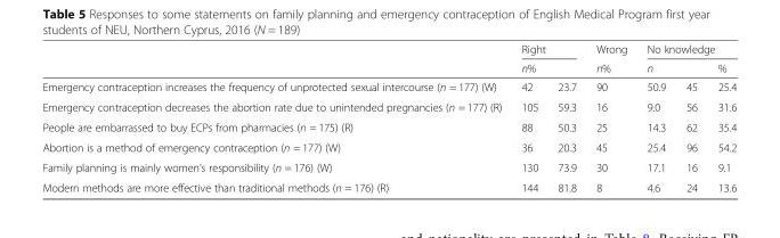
<table><thead><tr><td rowspan="3">Emergency contraception increases the frequency of unprotected sexual intercourse (n = 177) (W)</td><td rowspan="2" colspan="2">Right n%</td><td rowspan="3">Wrong n% 90</td><td colspan="3">No knowledge</td></tr><tr><td colspan="2">n</td><td rowspan="2">% 25.4</td></tr><tr><td>42</td><td>23.7</td><td>50.9</td><td>45</td></tr></thead><tbody><tr><td>Emergency contraception decreases the abortion rate due to unintended pregnancies (n = 177) (R)</td><td>105</td><td>59.3</td><td>16</td><td>9.0</td><td>56</td><td>31.6</td></tr><tr><td>People are embarrassed to buy ECPs from pharmacies (n = 175) (R)</td><td>88</td><td>50.3</td><td>25</td><td>14.3</td><td>62</td><td>35.4</td></tr><tr><td>Abortion is a method of emergency contraception (n = 177) (W)</td><td>36</td><td>20.3</td><td>45</td><td>25.4</td><td>96</td><td>54.2</td></tr><tr><td>Family planning is mainly women’s responsibility (n = 176) (W)</td><td>130</td><td>73.9</td><td>30</td><td>17.1</td><td>16</td><td>9.1</td></tr><tr><td>Modern methods are more effective than traditional methods (n = 176) (R)</td><td>144</td><td>81.8</td><td>8</td><td>4.6</td><td>24</td><td>13.6</td></tr></tbody></table>